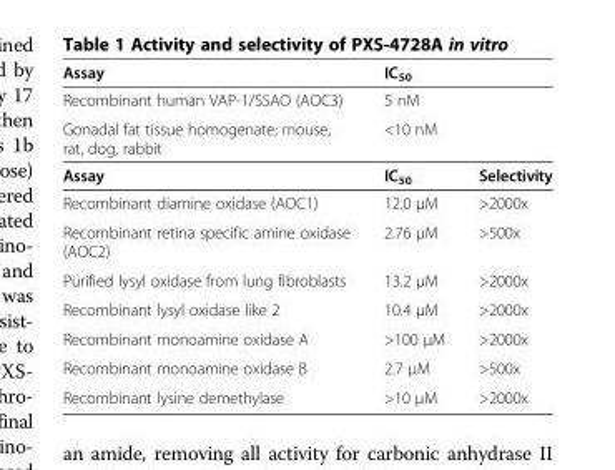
<table><tbody><tr><td>Assay</td><td>IC<sub>50</sub></td><td></td></tr><tr><td>Recombinant human VAP-1/SSAO (AOC3)</td><td>5 nM</td><td></td></tr><tr><td>Gonadal fat tissue homogenate; mouse, rat, dog, rabbit</td><td>&lt;10 nM</td><td></td></tr><tr><td>Assay</td><td>IC<sub>50</sub></td><td>Selectivity</td></tr><tr><td>Recombinant diamine oxidase (AOC1)</td><td>12.0 μM</td><td>&gt;2000x</td></tr><tr><td>Recombinant retina specific amine oxidase (AOC2)</td><td>2.76 μM</td><td>&gt;500x</td></tr><tr><td>Purified lysyl oxidase from lung fibroblasts</td><td>13.2 μM</td><td>&gt;2000x</td></tr><tr><td>Recombinant lysyl oxidase like 2</td><td>10.4 μM</td><td>&gt;2000x</td></tr><tr><td>Recombinant monoamine oxidase A</td><td>&gt;100 μM</td><td>&gt;2000x</td></tr><tr><td>Recombinant monoamine oxidase B</td><td>2.7 μM</td><td>&gt;500x</td></tr><tr><td>Recombinant lysine demethylase</td><td>&gt;10 μM</td><td>&gt;2000x</td></tr></tbody></table>